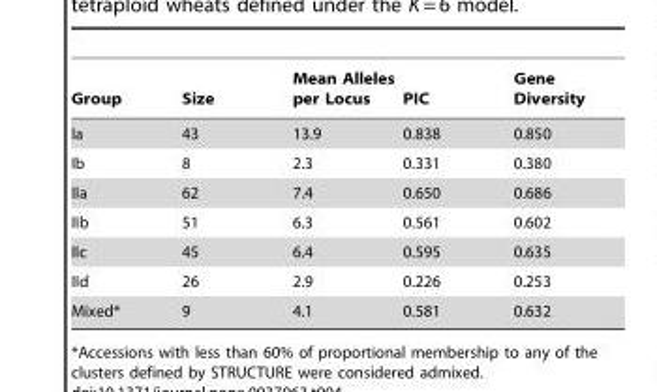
<table><thead><tr><td>Group</td><td>Size</td><td>Mean Alleles per Locus</td><td>PIC</td><td>Gene Diversity</td></tr></thead><tbody><tr><td>Ia</td><td>43</td><td>13.9</td><td>0.838</td><td>0.850</td></tr><tr><td>Ib</td><td>8</td><td>2.3</td><td>0.331</td><td>0.380</td></tr><tr><td>IIa</td><td>62</td><td>7.4</td><td>0.650</td><td>0.686</td></tr><tr><td>IIb</td><td>51</td><td>6.3</td><td>0.561</td><td>0.602</td></tr><tr><td>IIc</td><td>45</td><td>6.4</td><td>0.595</td><td>0.635</td></tr><tr><td>IId</td><td>26</td><td>2.9</td><td>0.226</td><td>0.253</td></tr><tr><td>Mixed*</td><td>9</td><td>4.1</td><td>0.581</td><td>0.632</td></tr></tbody></table>